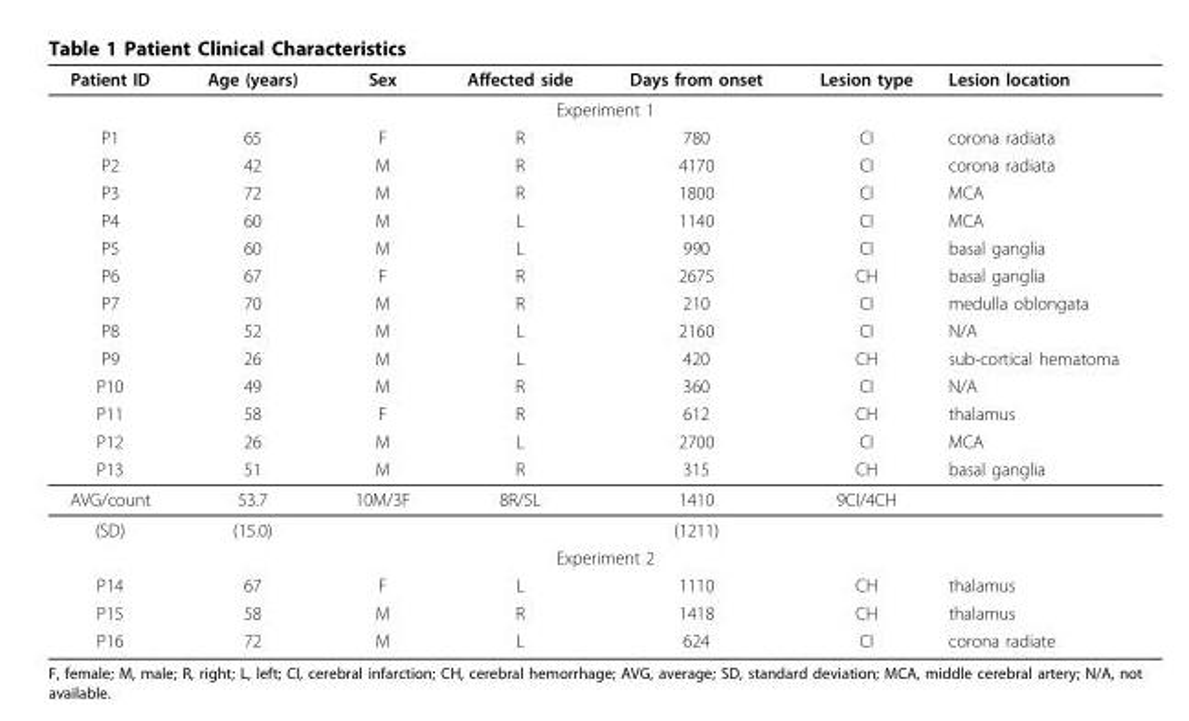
<table><thead><tr><td>Patient ID</td><td>Age (years)</td><td>Sex</td><td>Affected side</td><td>Days from onset</td><td>Lesion type</td><td>Lesion location</td></tr></thead><tbody><tr><td colspan="7">Experiment 1</td></tr><tr><td>P1</td><td>65</td><td>F</td><td>R</td><td>780</td><td>CI</td><td>corona radiata</td></tr><tr><td>P2</td><td>42</td><td>M</td><td>R</td><td>4170</td><td>CI</td><td>corona radiata</td></tr><tr><td>P3</td><td>72</td><td>M</td><td>R</td><td>1800</td><td>CI</td><td>MCA</td></tr><tr><td>P4</td><td>60</td><td>M</td><td>L</td><td>1140</td><td>CI</td><td>MCA</td></tr><tr><td>P5</td><td>60</td><td>M</td><td>L</td><td>990</td><td>CI</td><td>basal ganglia</td></tr><tr><td>P6</td><td>67</td><td>F</td><td>R</td><td>2675</td><td>CH</td><td>basal ganglia</td></tr><tr><td>P7</td><td>70</td><td>M</td><td>R</td><td>210</td><td>CI</td><td>medulla oblongata</td></tr><tr><td>P8</td><td>52</td><td>M</td><td>L</td><td>2160</td><td>CI</td><td>N/A</td></tr><tr><td>P9</td><td>26</td><td>M</td><td>L</td><td>420</td><td>CH</td><td>sub-cortical hematoma</td></tr><tr><td>P10</td><td>49</td><td>M</td><td>R</td><td>360</td><td>CI</td><td>N/A</td></tr><tr><td>P11</td><td>58</td><td>F</td><td>R</td><td>612</td><td>CH</td><td>thalamus</td></tr><tr><td>P12</td><td>26</td><td>M</td><td>L</td><td>2700</td><td>CI</td><td>MCA</td></tr><tr><td>P13</td><td>51</td><td>M</td><td>R</td><td>315</td><td>CH</td><td>basal ganglia</td></tr><tr><td>AVG/count</td><td>53.7</td><td>10M/3F</td><td>8R/5L</td><td>1410</td><td>9CI/4CH</td><td></td></tr><tr><td>(SD)</td><td>(15.0)</td><td></td><td></td><td>(1211)</td><td></td><td></td></tr><tr><td colspan="7">Experiment 2</td></tr><tr><td>P14</td><td>67</td><td>F</td><td>L</td><td>1110</td><td>CH</td><td>thalamus</td></tr><tr><td>P15</td><td>58</td><td>M</td><td>R</td><td>1418</td><td>CH</td><td>thalamus</td></tr><tr><td>P16</td><td>72</td><td>M</td><td>L</td><td>624</td><td>CI</td><td>corona radiate</td></tr></tbody></table>